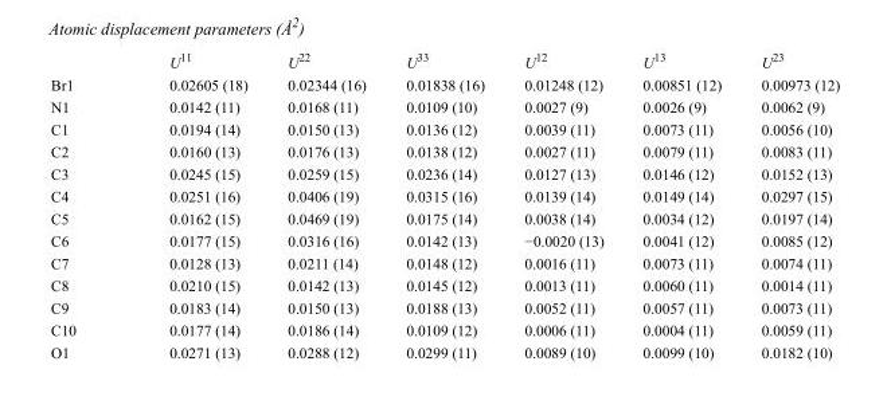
<table><thead><tr><td></td><td>U<sup>11</sup></td><td>U<sup>22</sup></td><td>U<sup>33</sup></td><td>U<sup>12</sup></td><td>U<sup>13</sup></td><td>U<sup>23</sup></td></tr></thead><tbody><tr><td>Br1</td><td>0.02605 (18)</td><td>0.02344 (16)</td><td>0.01838 (16)</td><td>0.01248 (12)</td><td>0.00851 (12)</td><td>0.00973 (12)</td></tr><tr><td>N1</td><td>0.0142 (11)</td><td>0.0168 (11)</td><td>0.0109 (10)</td><td>0.0027 (9)</td><td>0.0026 (9)</td><td>0.0062 (9)</td></tr><tr><td>C1</td><td>0.0194 (14)</td><td>0.0150 (13)</td><td>0.0136 (12)</td><td>0.0039 (11)</td><td>0.0073 (11)</td><td>0.0056 (10)</td></tr><tr><td>C2</td><td>0.0160 (13)</td><td>0.0176 (13)</td><td>0.0138 (12)</td><td>0.0027 (11)</td><td>0.0079 (11)</td><td>0.0083 (11)</td></tr><tr><td>C3</td><td>0.0245 (15)</td><td>0.0259 (15)</td><td>0.0236 (14)</td><td>0.0127 (13)</td><td>0.0146 (12)</td><td>0.0152 (13)</td></tr><tr><td>C4</td><td>0.0251 (16)</td><td>0.0406 (19)</td><td>0.0315 (16)</td><td>0.0139 (14)</td><td>0.0149 (14)</td><td>0.0297 (15)</td></tr><tr><td>C5</td><td>0.0162 (15)</td><td>0.0469 (19)</td><td>0.0175 (14)</td><td>0.0038 (14)</td><td>0.0034 (12)</td><td>0.0197 (14)</td></tr><tr><td>C6</td><td>0.0177 (15)</td><td>0.0316 (16)</td><td>0.0142 (13)</td><td>−0.0020 (13)</td><td>0.0041 (12)</td><td>0.0085 (12)</td></tr><tr><td>C7</td><td>0.0128 (13)</td><td>0.0211 (14)</td><td>0.0148 (12)</td><td>0.0016 (11)</td><td>0.0073 (11)</td><td>0.0074 (11)</td></tr><tr><td>C8</td><td>0.0210 (15)</td><td>0.0142 (13)</td><td>0.0145 (12)</td><td>0.0013 (11)</td><td>0.0060 (11)</td><td>0.0014 (11)</td></tr><tr><td>C9</td><td>0.0183 (14)</td><td>0.0150 (13)</td><td>0.0188 (13)</td><td>0.0052 (11)</td><td>0.0057 (11)</td><td>0.0073 (11)</td></tr><tr><td>C10</td><td>0.0177 (14)</td><td>0.0186 (14)</td><td>0.0109 (12)</td><td>0.0006 (11)</td><td>0.0004 (11)</td><td>0.0059 (11)</td></tr><tr><td>O1</td><td>0.0271 (13)</td><td>0.0288 (12)</td><td>0.0299 (11)</td><td>0.0089 (10)</td><td>0.0099 (10)</td><td>0.0182 (10)</td></tr></tbody></table>